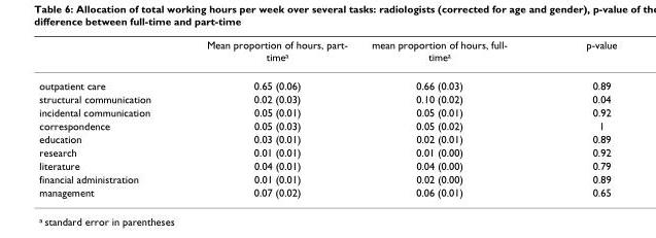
<table><thead><tr><td></td><td>Mean proportion of hours, part- timea</td><td>mean proportion of hours, full- timea</td><td>p-value</td></tr></thead><tbody><tr><td>outpatient care</td><td>0.65 (0.06)</td><td>0.66 (0.03)</td><td>0.89</td></tr><tr><td>structural communication</td><td>0.02 (0.03)</td><td>0.10 (0.02)</td><td>0.04</td></tr><tr><td>incidental communication</td><td>0.05 (0.01)</td><td>0.05 (0.01)</td><td>0.92</td></tr><tr><td>correspondence</td><td>0.05 (0.03)</td><td>0.05 (0.02)</td><td>1</td></tr><tr><td>education</td><td>0.03 (0.01)</td><td>0.02 (0.01)</td><td>0.89</td></tr><tr><td>research</td><td>0.01 (0.01)</td><td>0.01 (0.00)</td><td>0.92</td></tr><tr><td>literature</td><td>0.04 (0.01)</td><td>0.04 (0.00)</td><td>0.79</td></tr><tr><td>financial administration</td><td>0.01 (0.01)</td><td>0.02 (0.00)</td><td>0.89</td></tr><tr><td>management</td><td>0.07 (0.02)</td><td>0.06 (0.01)</td><td>0.65</td></tr></tbody></table>